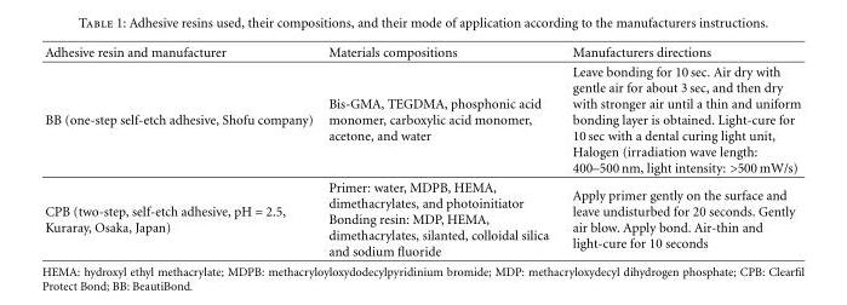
<table><thead><tr><td>Adhesive resin and manufacturer</td><td>Materials compositions</td><td>Manufacturers directions</td></tr></thead><tbody><tr><td>BB (one-step self-etch adhesive, Shofu company)</td><td>Bis-GMA, TEGDMA, phosphonic acid monomer, carboxylic acid monomer, acetone, and water</td><td>Leave bonding for 10 sec. Air dry with gentle air for about 3 sec, and then dry with stronger air until a thin and uniform bonding layer is obtained. Light-cure for 10 sec with a dental curing light unit, Halogen (irradiation wave length: 400–500 nm, light intensity: &gt;500 mW/s)</td></tr><tr><td>CPB (two-step, self-etch adhesive, pH = 2.5, Kuraray, Osaka, Japan)</td><td>Primer: water, MDPB, HEMA, dimethacrylates, and photoinitiator Bonding resin: MDP, HEMA, dimethacrylates, silanted, colloidal silica and sodium fluoride</td><td>Apply primer gently on the surface and leave undisturbed for 20 seconds. Gently air blow. Apply bond. Air-thin and light-cure for 10 seconds</td></tr></tbody></table>